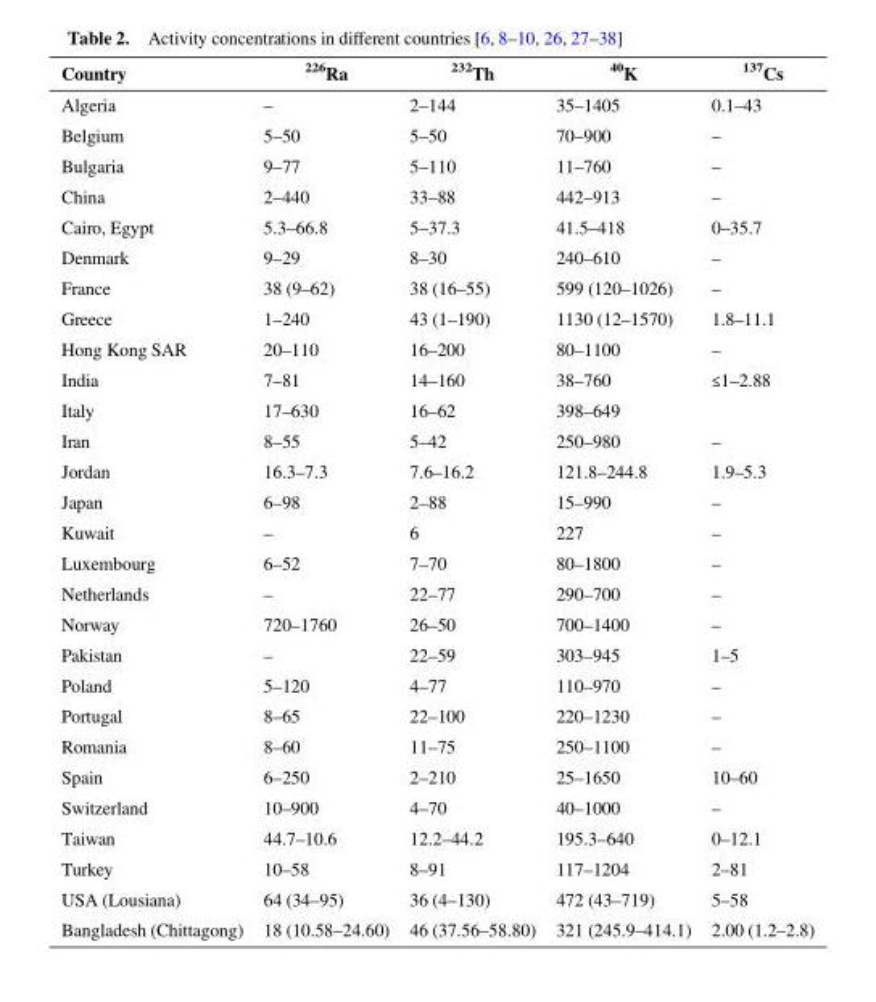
<table><thead><tr><td>Country</td><td><sup>226</sup>Ra</td><td><sup>232</sup>Th</td><td><sup>40</sup>K</td><td><sup>137</sup>Cs</td></tr></thead><tbody><tr><td>Algeria</td><td>–</td><td>2–144</td><td>35–1405</td><td>0.1–43</td></tr><tr><td>Belgium</td><td>5–50</td><td>5–50</td><td>70–900</td><td>–</td></tr><tr><td>Bulgaria</td><td>9–77</td><td>5–110</td><td>11–760</td><td>–</td></tr><tr><td>China</td><td>2–440</td><td>33–88</td><td>442–913</td><td>–</td></tr><tr><td>Cairo, Egypt</td><td>5.3–66.8</td><td>5–37.3</td><td>41.5–418</td><td>0–35.7</td></tr><tr><td>Denmark</td><td>9–29</td><td>8–30</td><td>240–610</td><td>–</td></tr><tr><td>France</td><td>38 (9–62)</td><td>38 (16–55)</td><td>599 (120–1026)</td><td>–</td></tr><tr><td>Greece</td><td>1–240</td><td>43 (1–190)</td><td>1130 (12–1570)</td><td>1.8–11.1</td></tr><tr><td>Hong Kong SAR</td><td>20–110</td><td>16–200</td><td>80–1100</td><td>–</td></tr><tr><td>India</td><td>7–81</td><td>14–160</td><td>38–760</td><td>≤1–2.88</td></tr><tr><td>Italy</td><td>17–630</td><td>16–62</td><td>398–649</td><td></td></tr><tr><td>Iran</td><td>8–55</td><td>5–42</td><td>250–980</td><td>–</td></tr><tr><td>Jordan</td><td>16.3–7.3</td><td>7.6–16.2</td><td>121.8–244.8</td><td>1.9–5.3</td></tr><tr><td>Japan</td><td>6–98</td><td>2–88</td><td>15–990</td><td>–</td></tr><tr><td>Kuwait</td><td>–</td><td>6</td><td>227</td><td>–</td></tr><tr><td>Luxembourg</td><td>6–52</td><td>7–70</td><td>80–1800</td><td>–</td></tr><tr><td>Netherlands</td><td>–</td><td>22–77</td><td>290–700</td><td>–</td></tr><tr><td>Norway</td><td>720–1760</td><td>26–50</td><td>700–1400</td><td>–</td></tr><tr><td>Pakistan</td><td>–</td><td>22–59</td><td>303–945</td><td>1–5</td></tr><tr><td>Poland</td><td>5–120</td><td>4–77</td><td>110–970</td><td>–</td></tr><tr><td>Portugal</td><td>8–65</td><td>22–100</td><td>220–1230</td><td>–</td></tr><tr><td>Romania</td><td>8–60</td><td>11–75</td><td>250–1100</td><td>–</td></tr><tr><td>Spain</td><td>6–250</td><td>2–210</td><td>25–1650</td><td>10–60</td></tr><tr><td>Switzerland</td><td>10–900</td><td>4–70</td><td>40–1000</td><td>–</td></tr><tr><td>Taiwan</td><td>44.7–10.6</td><td>12.2–44.2</td><td>195.3–640</td><td>0–12.1</td></tr><tr><td>Turkey</td><td>10–58</td><td>8–91</td><td>117–1204</td><td>2–81</td></tr><tr><td>USA (Lousiana)</td><td>64 (34–95)</td><td>36 (4–130)</td><td>472 (43–719)</td><td>5–58</td></tr><tr><td>Bangladesh (Chittagong)</td><td>18 (10.58–24.60)</td><td>46 (37.56–58.80)</td><td>321 (245.9–414.1)</td><td>2.00 (1.2–2.8)</td></tr></tbody></table>